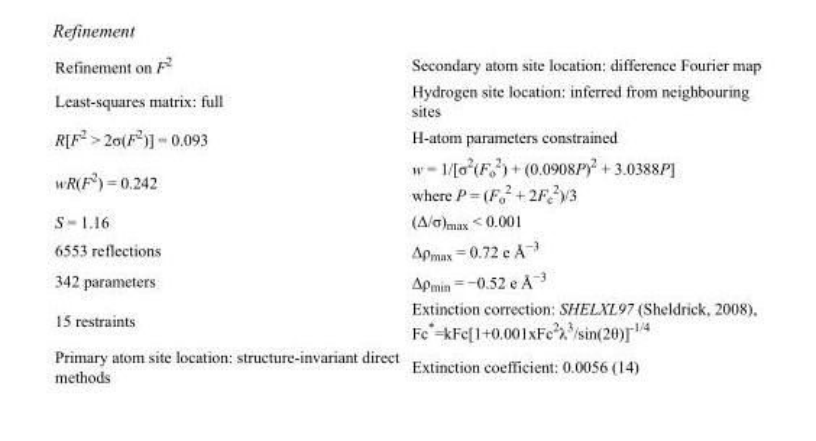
<table><tbody><tr><td>Refinement on F<sup>2</sup></td><td>Secondary atom site location: difference Fourier map</td></tr><tr><td>Least-squares matrix: full</td><td>Hydrogen site location: inferred from neighbouring sites</td></tr><tr><td>R[F<sup>2</sup> &gt; 2σ(F<sup>2</sup>)] = 0.093</td><td>H-atom parameters constrained</td></tr><tr><td>wR(F<sup>2</sup>) = 0.242</td><td>w = 1/[σ<sup>2</sup>(F<sub>o</sub> <sup>2</sup>) + (0.0908P)<sup>2</sup> + 3.0388P] where P = (F<sub>o</sub> <sup>2</sup> + 2F<sub>c</sub> <sup>2</sup>)/3</td></tr><tr><td>S = 1.16</td><td>(Δ/σ)<sub>max</sub> &lt; 0.001</td></tr><tr><td>6553 reflections</td><td>Δρ<sub>max</sub> = 0.72 e Å<sup>−3</sup></td></tr><tr><td>342 parameters</td><td>Δρ<sub>min</sub> = −0.52 e Å<sup>−3</sup></td></tr><tr><td>15 restraints</td><td>Extinction correction: SHELXL97 (Sheldrick, 2008), Fc*=kFc[1+0.001xFc<sup>2</sup>λ<sup>3</sup>/sin(2θ)]<sup>-1/4</sup></td></tr><tr><td>Primary atom site location: structure-invariant direct methods</td><td>Extinction coefficient: 0.0056 (14)</td></tr></tbody></table>